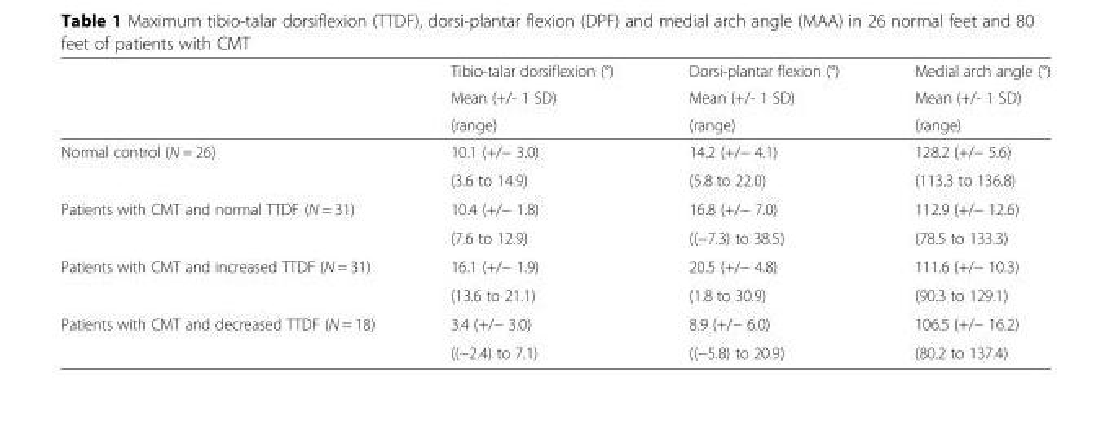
<table><thead><tr><td rowspan="3"></td><td rowspan="3">Tibio-talar dorsiflexion (°) Mean (+/- 1 SD) (range)</td><td rowspan="3">Dorsi-plantar flexion (°) Mean (+/- 1 SD) (range)</td><td rowspan="3">Medial arch angle (°) Mean (+/- 1 SD) (range)</td></tr><tr></tr><tr></tr></thead><tbody><tr><td rowspan="2">Normal control (N = 26)</td><td>10.1 (+/− 3.0)</td><td>14.2 (+/− 4.1)</td><td>128.2 (+/− 5.6)</td></tr><tr><td>(3.6 to 14.9)</td><td>(5.8 to 22.0)</td><td>(113.3 to 136.8)</td></tr><tr><td rowspan="2">Patients with CMT and normal TTDF (N = 31)</td><td>10.4 (+/− 1.8)</td><td>16.8 (+/− 7.0)</td><td>112.9 (+/− 12.6)</td></tr><tr><td>(7.6 to 12.9)</td><td>((−7.3) to 38.5)</td><td>(78.5 to 133.3)</td></tr><tr><td rowspan="2">Patients with CMT and increased TTDF (N = 31)</td><td>16.1 (+/− 1.9)</td><td>20.5 (+/− 4.8)</td><td>111.6 (+/− 10.3)</td></tr><tr><td>(13.6 to 21.1)</td><td>(1.8 to 30.9)</td><td>(90.3 to 129.1)</td></tr><tr><td rowspan="2">Patients with CMT and decreased TTDF (N = 18)</td><td>3.4 (+/− 3.0)</td><td>8.9 (+/− 6.0)</td><td>106.5 (+/− 16.2)</td></tr><tr><td>((−2.4) to 7.1)</td><td>((−5.8) to 20.9)</td><td>(80.2 to 137.4)</td></tr></tbody></table>